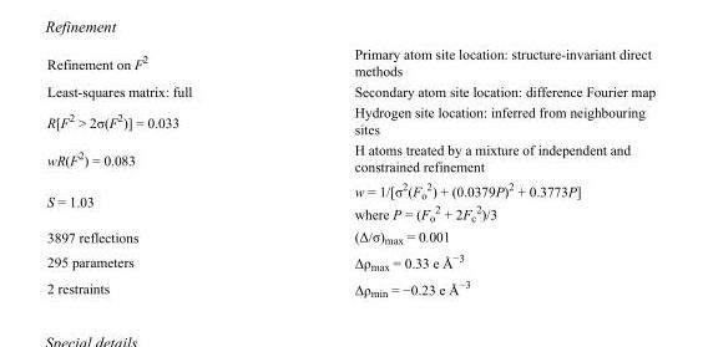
<table><tbody><tr><td>Refinement on F<sup>2</sup></td><td>Primary atom site location: structure-invariant direct methods</td></tr><tr><td>Least-squares matrix: full</td><td>Secondary atom site location: difference Fourier map</td></tr><tr><td>R[F<sup>2</sup> &gt; 2σ(F<sup>2</sup>)] = 0.033</td><td>Hydrogen site location: inferred from neighbouring sites</td></tr><tr><td>wR(F<sup>2</sup>) = 0.083</td><td>H atoms treated by a mixture of independent and constrained refinement</td></tr><tr><td>S = 1.03</td><td>w = 1/[σ<sup>2</sup>(F<sub>o</sub> <sup>2</sup>) + (0.0379P)<sup>2</sup> + 0.3773P] where P = (F<sub>o</sub> <sup>2</sup> + 2F<sub>c</sub> <sup>2</sup>)/3</td></tr><tr><td>3897 reflections</td><td>(Δ/σ)<sub>max</sub> = 0.001</td></tr><tr><td>295 parameters</td><td>Δρ<sub>max</sub> = 0.33 e Å<sup>−3</sup></td></tr><tr><td>2 restraints</td><td>Δρ<sub>min</sub> = −0.23 e Å<sup>−3</sup></td></tr></tbody></table>